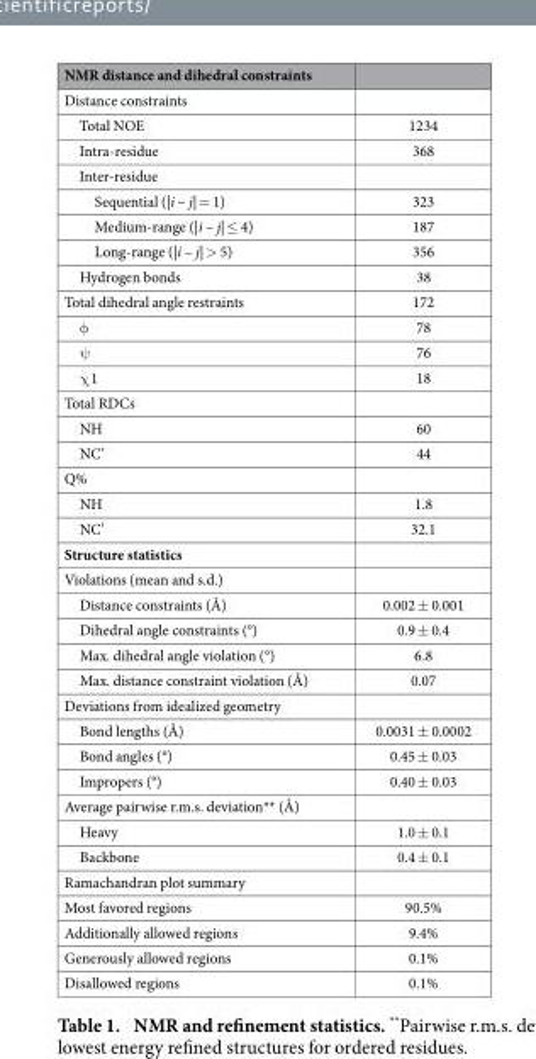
<table><thead><tr><td>NMR distance and dihedral constraints</td><td></td></tr></thead><tbody><tr><td colspan="2">Distance constraints</td></tr><tr><td>Total NOE</td><td>1234</td></tr><tr><td>Intra-residue</td><td>368</td></tr><tr><td colspan="2">Inter-residue</td></tr><tr><td>Sequential (|i – j| = 1)</td><td>323</td></tr><tr><td>Medium-range (|i – j| ≤ 4)</td><td>187</td></tr><tr><td>Long-range (|i – j| &gt; 5)</td><td>356</td></tr><tr><td>Hydrogen bonds</td><td>38</td></tr><tr><td>Total dihedral angle restraints</td><td>172</td></tr><tr><td>φ</td><td>78</td></tr><tr><td>ψ</td><td>76</td></tr><tr><td>χ 1</td><td>18</td></tr><tr><td colspan="2">Total RDCs</td></tr><tr><td>NH</td><td>60</td></tr><tr><td>NC’</td><td>44</td></tr><tr><td colspan="2">Q%</td></tr><tr><td>NH</td><td>1.8</td></tr><tr><td>NC’</td><td>32.1</td></tr><tr><td colspan="2">Structure statistics</td></tr><tr><td colspan="2">Violations (mean and s.d.)</td></tr><tr><td>Distance constraints (Å)</td><td>0.002 ± 0.001</td></tr><tr><td>Dihedral angle constraints (°)</td><td>0.9 ± 0.4</td></tr><tr><td>Max. dihedral angle violation (°)</td><td>6.8</td></tr><tr><td>Max. distance constraint violation (Å)</td><td>0.07</td></tr><tr><td colspan="2">Deviations from idealized geometry</td></tr><tr><td>Bond lengths (Å)</td><td>0.0031 ± 0.0002</td></tr><tr><td>Bond angles (°)</td><td>0.45 ± 0.03</td></tr><tr><td>Impropers (°)</td><td>0.40 ± 0.03</td></tr><tr><td colspan="2">Average pairwise r.m.s. deviation** (Å)</td></tr><tr><td>Heavy</td><td>1.0 ± 0.1</td></tr><tr><td>Backbone</td><td>0.4 ± 0.1</td></tr><tr><td colspan="2">Ramachandran plot summary</td></tr><tr><td>Most favored regions</td><td>90.5%</td></tr><tr><td>Additionally allowed regions</td><td>9.4%</td></tr><tr><td>Generously allowed regions</td><td>0.1%</td></tr><tr><td>Disallowed regions</td><td>0.1%</td></tr></tbody></table>